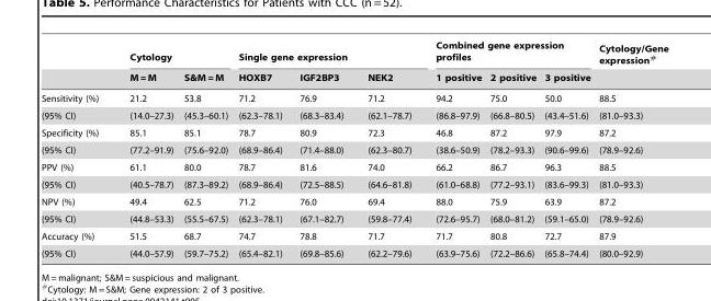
<table><thead><tr><td rowspan="2"></td><td colspan="2">Cytology</td><td colspan="3">Single gene expression</td><td colspan="3">Combined gene expression profiles</td><td rowspan="2">Cytology/Gene expression#</td></tr><tr><td>M = M</td><td>S&amp;M = M</td><td>HOXB7</td><td>IGF2BP3</td><td>NEK2</td><td>1 positive</td><td>2 positive</td><td>3 positive</td></tr></thead><tbody><tr><td>Sensitivity (%)</td><td>21.2</td><td>53.8</td><td>71.2</td><td>76.9</td><td>71.2</td><td>94.2</td><td>75.0</td><td>50.0</td><td>88.5</td></tr><tr><td>(95% CI)</td><td>(14.0–27.3)</td><td>(45.3–60.1)</td><td>(62.3–78.1)</td><td>(68.3–83.4)</td><td>(62.1–78.7)</td><td>(86.8–97.9)</td><td>(66.8–80.5)</td><td>(43.4–51.6)</td><td>(81.0–93.3)</td></tr><tr><td>Specificity (%)</td><td>85.1</td><td>85.1</td><td>78.7</td><td>80.9</td><td>72.3</td><td>46.8</td><td>87.2</td><td>97.9</td><td>87.2</td></tr><tr><td>(95% CI)</td><td>(77.2–91.9)</td><td>(75.6–92.0)</td><td>(68.9–86.4)</td><td>(71.4–88.0)</td><td>(62.3–80.7)</td><td>(38.6–50.9)</td><td>(78.2–93.3)</td><td>(90.6–99.6)</td><td>(78.9–92.6)</td></tr><tr><td>PPV (%)</td><td>61.1</td><td>80.0</td><td>78.7</td><td>81.6</td><td>74.0</td><td>66.2</td><td>86.7</td><td>96.3</td><td>88.5</td></tr><tr><td>(95% CI)</td><td>(40.5–78.7)</td><td>(87.3–89.2)</td><td>(68.9–86.4)</td><td>(72.5–88.5)</td><td>(64.6–81.8)</td><td>(61.0–68.8)</td><td>(77.2–93.1)</td><td>(83.6–99.3)</td><td>(81.0–93.3)</td></tr><tr><td>NPV (%)</td><td>49.4</td><td>62.5</td><td>71.2</td><td>76.0</td><td>69.4</td><td>88.0</td><td>75.9</td><td>63.9</td><td>87.2</td></tr><tr><td>(95% CI)</td><td>(44.8–53.3)</td><td>(55.5–67.5)</td><td>(62.3–78.1)</td><td>(67.1–82.7)</td><td>(59.8–77.4)</td><td>(72.6–95.7)</td><td>(68.0–81.2)</td><td>(59.1–65.0)</td><td>(78.9–92.6)</td></tr><tr><td>Accuracy (%)</td><td>51.5</td><td>68.7</td><td>74.7</td><td>78.8</td><td>71.7</td><td>71.7</td><td>80.8</td><td>72.7</td><td>87.9</td></tr><tr><td>(95% CI)</td><td>(44.0–57.9)</td><td>(59.7–75.2)</td><td>(65.4–82.1)</td><td>(69.8–85.6)</td><td>(62.2–79.6)</td><td>(63.9–75.6)</td><td>(72.2–86.6)</td><td>(65.8–74.4)</td><td>(80.0–92.9)</td></tr></tbody></table>